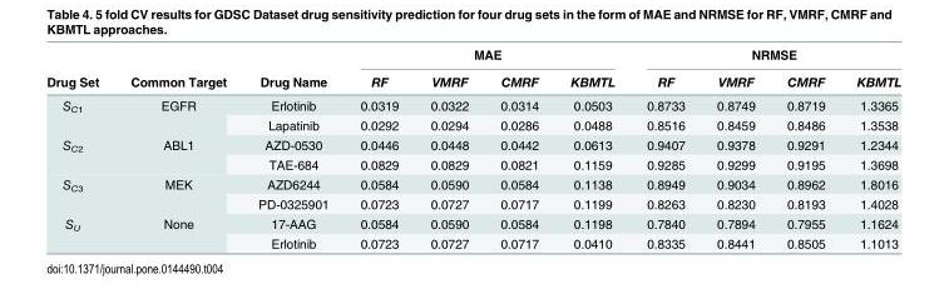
<table><thead><tr><td rowspan="2">Drug Set</td><td rowspan="2">Common Target</td><td rowspan="2">Drug Name</td><td colspan="4">MAE</td><td colspan="4">NRMSE</td></tr><tr><td>RF</td><td>VMRF</td><td>CMRF</td><td>KBMTL</td><td>RF</td><td>VMRF</td><td>CMRF</td><td>KBMTL</td></tr></thead><tbody><tr><td rowspan="2">S<sub>C1</sub></td><td rowspan="2">EGFR</td><td>Erlotinib</td><td>0.0319</td><td>0.0322</td><td>0.0314</td><td>0.0503</td><td>0.8733</td><td>0.8749</td><td>0.8719</td><td>1.3365</td></tr><tr><td>Lapatinib</td><td>0.0292</td><td>0.0294</td><td>0.0286</td><td>0.0488</td><td>0.8516</td><td>0.8459</td><td>0.8486</td><td>1.3538</td></tr><tr><td rowspan="2">S<sub>C2</sub></td><td rowspan="2">ABL1</td><td>AZD-0530</td><td>0.0446</td><td>0.0448</td><td>0.0442</td><td>0.0613</td><td>0.9407</td><td>0.9378</td><td>0.9291</td><td>1.2344</td></tr><tr><td>TAE-684</td><td>0.0829</td><td>0.0829</td><td>0.0821</td><td>0.1159</td><td>0.9285</td><td>0.9299</td><td>0.9195</td><td>1.3698</td></tr><tr><td rowspan="2">S<sub>C3</sub></td><td rowspan="2">MEK</td><td>AZD6244</td><td>0.0584</td><td>0.0590</td><td>0.0584</td><td>0.1138</td><td>0.8949</td><td>0.9034</td><td>0.8962</td><td>1.8016</td></tr><tr><td>PD-0325901</td><td>0.0723</td><td>0.0727</td><td>0.0717</td><td>0.1199</td><td>0.8263</td><td>0.8230</td><td>0.8193</td><td>1.4028</td></tr><tr><td rowspan="2">S<sub>U</sub></td><td rowspan="2">None</td><td>17-AAG</td><td>0.0584</td><td>0.0590</td><td>0.0584</td><td>0.1198</td><td>0.7840</td><td>0.7894</td><td>0.7955</td><td>1.1624</td></tr><tr><td>Erlotinib</td><td>0.0723</td><td>0.0727</td><td>0.0717</td><td>0.0410</td><td>0.8335</td><td>0.8441</td><td>0.8505</td><td>1.1013</td></tr></tbody></table>